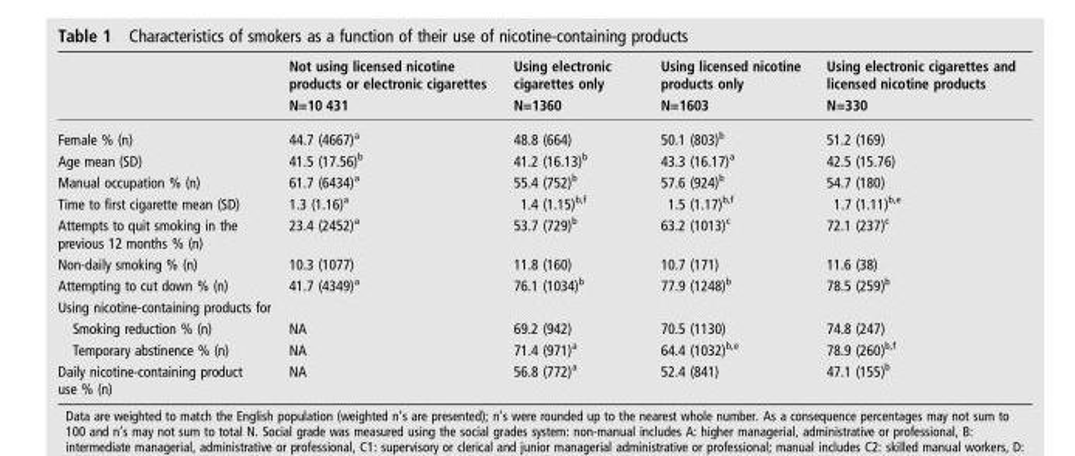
<table><thead><tr><td rowspan="2"></td><td rowspan="2">Not using licensed nicotine products or electronic cigarettes N=10 431</td><td rowspan="2">Using electronic cigarettes only N=1360</td><td rowspan="2">Using licensed nicotine products only N=1603</td><td rowspan="2">Using electronic cigarettes and licensed nicotine products N=330</td></tr><tr></tr></thead><tbody><tr><td>Female % (n)</td><td>44.7 (4667)<sup>a</sup></td><td>48.8 (664)</td><td>50.1 (803)<sup>b</sup></td><td>51.2 (169)</td></tr><tr><td>Age mean (SD)</td><td>41.5 (17.56)<sup>b</sup></td><td>41.2 (16.13)<sup>b</sup></td><td>43.3 (16.17)<sup>a</sup></td><td>42.5 (15.76)</td></tr><tr><td>Manual occupation % (n)</td><td>61.7 (6434)<sup>a</sup></td><td>55.4 (752)<sup>b</sup></td><td>57.6 (924)<sup>b</sup></td><td>54.7 (180)</td></tr><tr><td>Time to first cigarette mean (SD)</td><td>1.3 (1.16)<sup>a</sup></td><td>1.4 (1.15)<sup>b,f</sup></td><td>1.5 (1.17)<sup>b,f</sup></td><td>1.7 (1.11)<sup>b,e</sup></td></tr><tr><td>Attempts to quit smoking in the previous 12 months % (n)</td><td>23.4 (2452)<sup>a</sup></td><td>53.7 (729)<sup>b</sup></td><td>63.2 (1013)<sup>c</sup></td><td>72.1 (237)<sup>c</sup></td></tr><tr><td>Non-daily smoking % (n)</td><td>10.3 (1077)</td><td>11.8 (160)</td><td>10.7 (171)</td><td>11.6 (38)</td></tr><tr><td>Attempting to cut down % (n)</td><td>41.7 (4349)<sup>a</sup></td><td>76.1 (1034)<sup>b</sup></td><td>77.9 (1248)<sup>b</sup></td><td>78.5 (259)<sup>b</sup></td></tr><tr><td colspan="5">Using nicotine-containing products for</td></tr><tr><td>Smoking reduction % (n)</td><td>NA</td><td>69.2 (942)</td><td>70.5 (1130)</td><td>74.8 (247)</td></tr><tr><td>Temporary abstinence % (n)</td><td>NA</td><td>71.4 (971)<sup>a</sup></td><td>64.4 (1032)<sup>b,e</sup></td><td>78.9 (260)<sup>b,f</sup></td></tr><tr><td>Daily nicotine-containing product use % (n)</td><td>NA</td><td>56.8 (772)<sup>a</sup></td><td>52.4 (841)</td><td>47.1 (155)<sup>b</sup></td></tr></tbody></table>